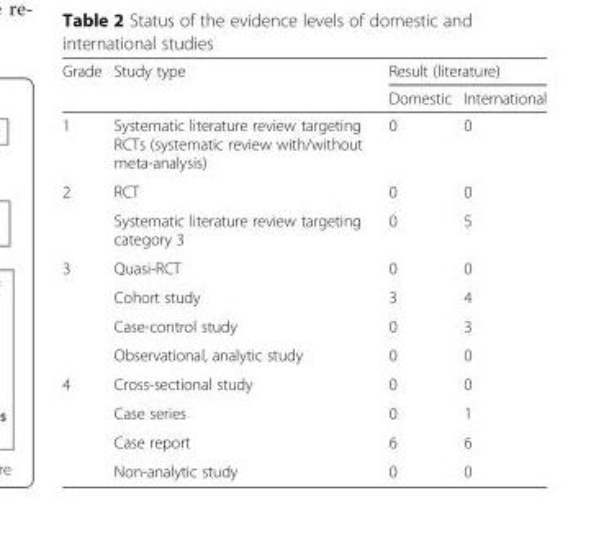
<table><thead><tr><td rowspan="2">Grade</td><td rowspan="2">Study type</td><td colspan="2">Result (literature)</td></tr><tr><td>Domestic</td><td>International</td></tr></thead><tbody><tr><td>1</td><td>Systematic literature review targeting RCTs (systematic review with/without meta-analysis)</td><td>0</td><td>0</td></tr><tr><td rowspan="2">2</td><td>RCT</td><td>0</td><td>0</td></tr><tr><td>Systematic literature review targeting category 3</td><td>0</td><td>5</td></tr><tr><td rowspan="4">3</td><td>Quasi-RCT</td><td>0</td><td>0</td></tr><tr><td>Cohort study</td><td>3</td><td>4</td></tr><tr><td>Case-control study</td><td>0</td><td>3</td></tr><tr><td>Observational, analytic study</td><td>0</td><td>0</td></tr><tr><td rowspan="4">4</td><td>Cross-sectional study</td><td>0</td><td>0</td></tr><tr><td>Case series</td><td>0</td><td>1</td></tr><tr><td>Case report</td><td>6</td><td>6</td></tr><tr><td>Non-analytic study</td><td>0</td><td>0</td></tr></tbody></table>